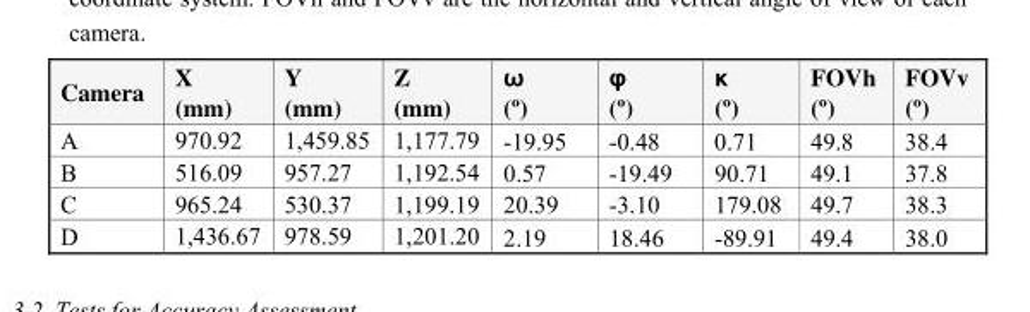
<table><thead><tr><td>Camera</td><td>X (mm)</td><td>Y (mm)</td><td>Z (mm)</td><td>ω (º)</td><td>φ (º)</td><td>κ (º)</td><td>FOVh (º)</td><td>FOVv (º)</td></tr></thead><tbody><tr><td>A</td><td>970.92</td><td>1,459.85</td><td>1,177.79</td><td>-19.95</td><td>-0.48</td><td>0.71</td><td>49.8</td><td>38.4</td></tr><tr><td>B</td><td>516.09</td><td>957.27</td><td>1,192.54</td><td>0.57</td><td>-19.49</td><td>90.71</td><td>49.1</td><td>37.8</td></tr><tr><td>C</td><td>965.24</td><td>530.37</td><td>1,199.19</td><td>20.39</td><td>-3.10</td><td>179.08</td><td>49.7</td><td>38.3</td></tr><tr><td>D</td><td>1,436.67</td><td>978.59</td><td>1,201.20</td><td>2.19</td><td>18.46</td><td>-89.91</td><td>49.4</td><td>38.0</td></tr></tbody></table>